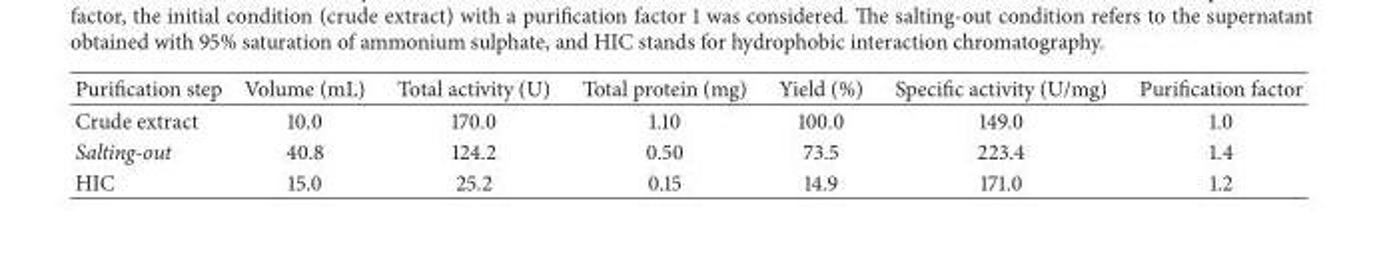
<table><thead><tr><td>Purification step</td><td>Volume (mL)</td><td>Total activity (U)</td><td>Total protein (mg)</td><td>Yield (%)</td><td>Specific activity (U/mg)</td><td>Purification factor</td></tr></thead><tbody><tr><td>Crude extract</td><td>10.0</td><td>170.0</td><td>1.10</td><td>100.0</td><td>149.0</td><td>1.0</td></tr><tr><td>Salting-out</td><td>40.8</td><td>124.2</td><td>0.50</td><td>73.5</td><td>223.4</td><td>1.4</td></tr><tr><td>HIC</td><td>15.0</td><td>25.2</td><td>0.15</td><td>14.9</td><td>171.0</td><td>1.2</td></tr></tbody></table>